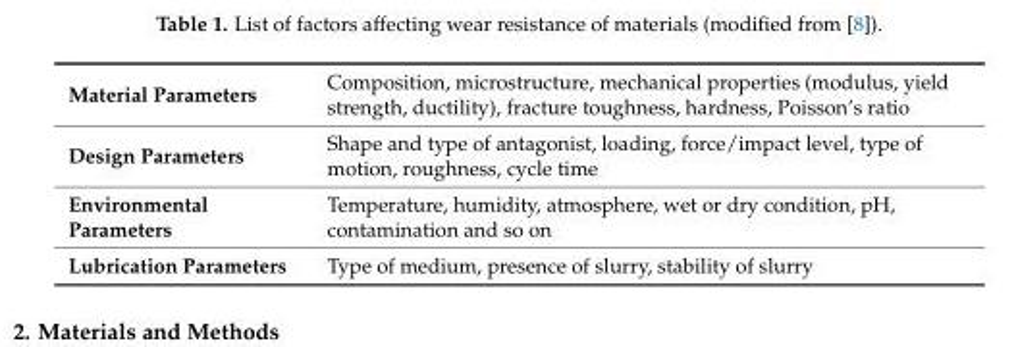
<table><tbody><tr><td>Material Parameters</td><td>Composition, microstructure, mechanical properties (modulus, yield strength, ductility), fracture toughness, hardness, Poisson’s ratio</td></tr><tr><td>Design Parameters</td><td>Shape and type of antagonist, loading, force/impact level, type of motion, roughness, cycle time</td></tr><tr><td>Environmental Parameters</td><td>Temperature, humidity, atmosphere, wet or dry condition, pH, contamination and so on</td></tr><tr><td>Lubrication Parameters</td><td>Type of medium, presence of slurry, stability of slurry</td></tr></tbody></table>